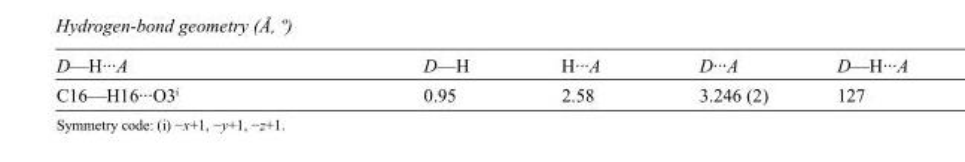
<table><tbody><tr><td>D—H···A</td><td>D—H</td><td>H···A</td><td>D···A</td><td>D—H···A</td></tr><tr><td>C16—H16···O3<sup>i</sup></td><td>0.95</td><td>2.58</td><td>3.246 (2)</td><td>127</td></tr></tbody></table>